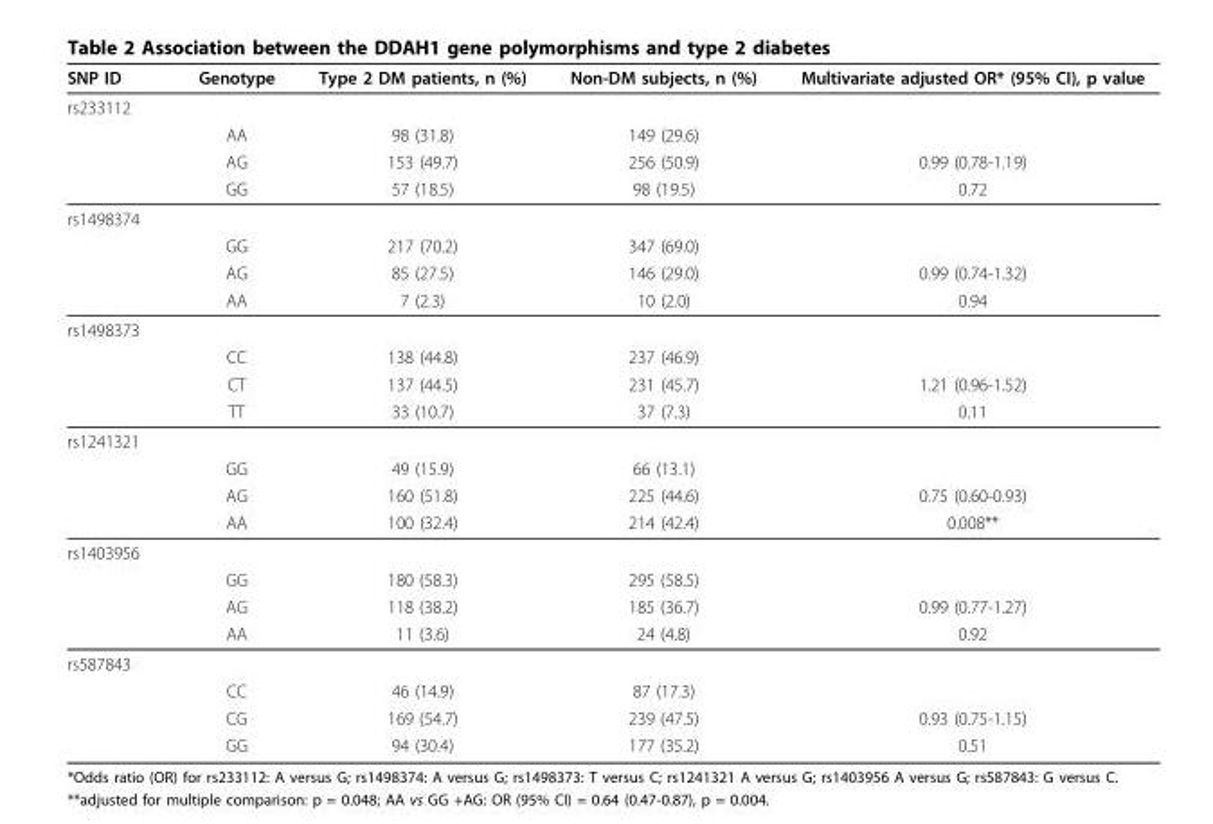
<table><thead><tr><td>SNP ID</td><td>Genotype</td><td>Type 2 DM patients, n (%)</td><td>Non-DM subjects, n (%)</td><td>Multivariate adjusted OR* (95% CI), p value</td></tr></thead><tbody><tr><td colspan="5">rs233112</td></tr><tr><td></td><td>AA</td><td>98 (31.8)</td><td>149 (29.6)</td><td></td></tr><tr><td></td><td>AG</td><td>153 (49.7)</td><td>256 (50.9)</td><td>0.99 (0.78-1.19)</td></tr><tr><td></td><td>GG</td><td>57 (18.5)</td><td>98 (19.5)</td><td>0.72</td></tr><tr><td colspan="5">rs1498374</td></tr><tr><td></td><td>GG</td><td>217 (70.2)</td><td>347 (69.0)</td><td></td></tr><tr><td></td><td>AG</td><td>85 (27.5)</td><td>146 (29.0)</td><td>0.99 (0.74-1.32)</td></tr><tr><td></td><td>AA</td><td>7 (2.3)</td><td>10 (2.0)</td><td>0.94</td></tr><tr><td colspan="5">rs1498373</td></tr><tr><td></td><td>CC</td><td>138 (44.8)</td><td>237 (46.9)</td><td></td></tr><tr><td></td><td>CT</td><td>137 (44.5)</td><td>231 (45.7)</td><td>1.21 (0.96-1.52)</td></tr><tr><td></td><td>TT</td><td>33 (10.7)</td><td>37 (7.3)</td><td>0.11</td></tr><tr><td colspan="5">rs1241321</td></tr><tr><td></td><td>GG</td><td>49 (15.9)</td><td>66 (13.1)</td><td></td></tr><tr><td></td><td>AG</td><td>160 (51.8)</td><td>225 (44.6)</td><td>0.75 (0.60-0.93)</td></tr><tr><td></td><td>AA</td><td>100 (32.4)</td><td>214 (42.4)</td><td>0.008**</td></tr><tr><td colspan="5">rs1403956</td></tr><tr><td></td><td>GG</td><td>180 (58.3)</td><td>295 (58.5)</td><td></td></tr><tr><td></td><td>AG</td><td>118 (38.2)</td><td>185 (36.7)</td><td>0.99 (0.77-1.27)</td></tr><tr><td></td><td>AA</td><td>11 (3.6)</td><td>24 (4.8)</td><td>0.92</td></tr><tr><td colspan="5">rs587843</td></tr><tr><td></td><td>CC</td><td>46 (14.9)</td><td>87 (17.3)</td><td></td></tr><tr><td></td><td>CG</td><td>169 (54.7)</td><td>239 (47.5)</td><td>0.93 (0.75-1.15)</td></tr><tr><td></td><td>GG</td><td>94 (30.4)</td><td>177 (35.2)</td><td>0.51</td></tr></tbody></table>